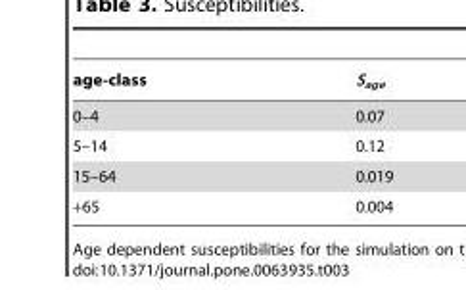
<table><thead><tr><td>age-class</td><td>S<sub>age</sub></td></tr></thead><tbody><tr><td>0–4</td><td>0.07</td></tr><tr><td>5–14</td><td>0.12</td></tr><tr><td>15–64</td><td>0.019</td></tr><tr><td>+65</td><td>0.004</td></tr></tbody></table>